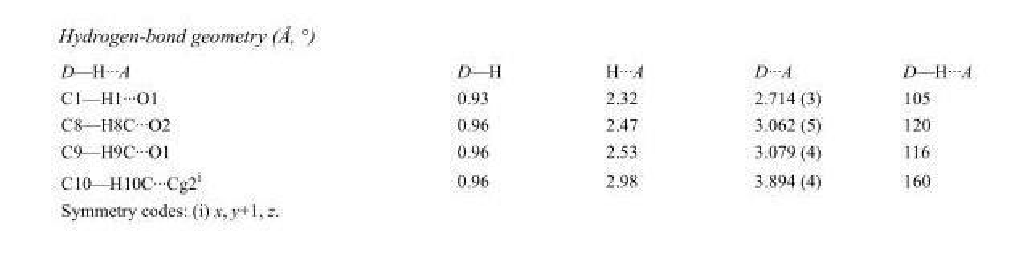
<table><tbody><tr><td>D—H···A</td><td>D—H</td><td>H···A</td><td>D···A</td><td>D—H···A</td></tr><tr><td>C1—H1···O1</td><td>0.93</td><td>2.32</td><td>2.714 (3)</td><td>105</td></tr><tr><td>C8—H8C···O2</td><td>0.96</td><td>2.47</td><td>3.062 (5)</td><td>120</td></tr><tr><td>C9—H9C···O1</td><td>0.96</td><td>2.53</td><td>3.079 (4)</td><td>116</td></tr><tr><td>C10—H10C···Cg2<sup>i</sup></td><td>0.96</td><td>2.98</td><td>3.894 (4)</td><td>160</td></tr></tbody></table>